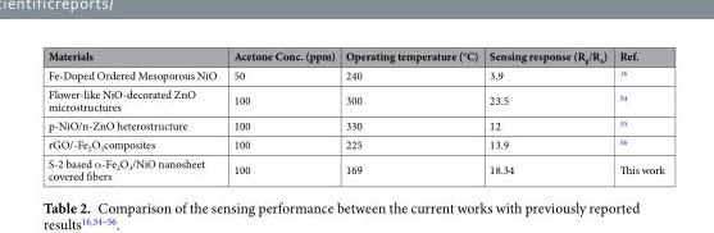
<table><thead><tr><td>Materials</td><td>Acetone Conc. (ppm)</td><td>Operating temperature (°C)</td><td>Sensing response (R<sub>g</sub>/R<sub>a</sub>)</td><td>Ref.</td></tr></thead><tbody><tr><td>Fe-Doped Ordered Mesoporous NiO</td><td>50</td><td>240</td><td>3.9</td><td><sup>16</sup></td></tr><tr><td>Flower-like NiO-decorated ZnO microstructures</td><td>100</td><td>300</td><td>23.5</td><td><sup>54</sup></td></tr><tr><td>p-NiO/n-ZnO heterostructure</td><td>100</td><td>330</td><td>12</td><td><sup>55</sup></td></tr><tr><td>rGO/-Fe<sub>2</sub>O<sub>3</sub>composites</td><td>100</td><td>225</td><td>13.9</td><td><sup>56</sup></td></tr><tr><td>S-2 based α-Fe<sub>2</sub>O<sub>3</sub>/NiO nanosheet covered fibers</td><td>100</td><td>169</td><td>18.34</td><td>This work</td></tr></tbody></table>